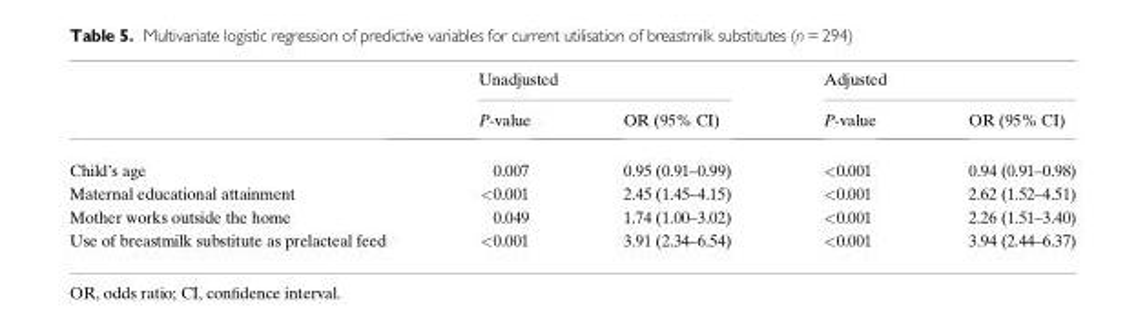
<table><thead><tr><td rowspan="2"></td><td colspan="2">Unadjusted</td><td colspan="2">Adjusted</td></tr><tr><td>P-value</td><td>OR (95% CI)</td><td>P-value</td><td>OR (95% CI)</td></tr></thead><tbody><tr><td>Child’s age</td><td>0.007</td><td>0.95 (0.91–0.99)</td><td>&lt;0.001</td><td>0.94 (0.91–0.98)</td></tr><tr><td>Maternal educational attainment</td><td>&lt;0.001</td><td>2.45 (1.45–4.15)</td><td>&lt;0.001</td><td>2.62 (1.52–4.51)</td></tr><tr><td>Mother works outside the home</td><td>0.049</td><td>1.74 (1.00–3.02)</td><td>&lt;0.001</td><td>2.26 (1.51–3.40)</td></tr><tr><td>Use of breastmilk substitute as prelacteal feed</td><td>&lt;0.001</td><td>3.91 (2.34–6.54)</td><td>&lt;0.001</td><td>3.94 (2.44–6.37)</td></tr></tbody></table>